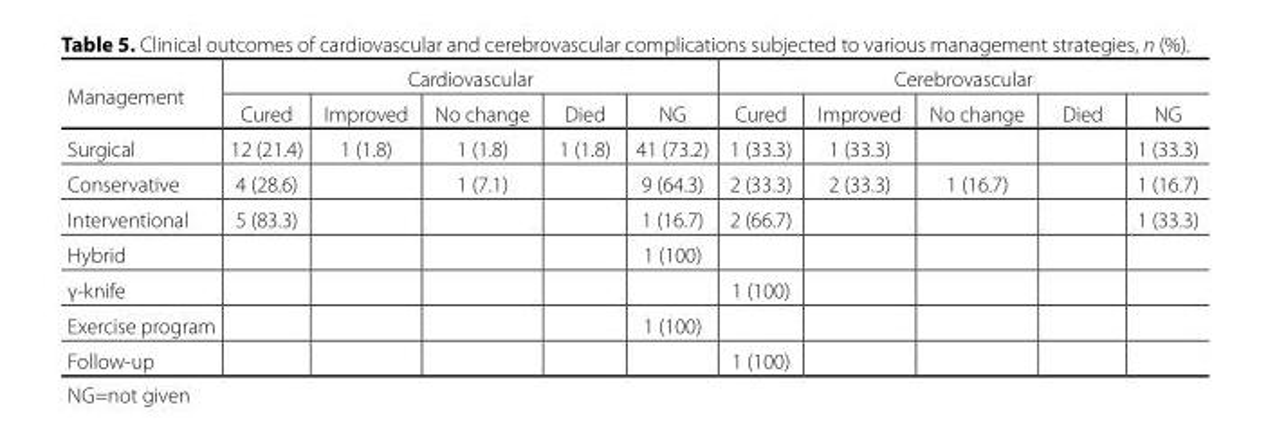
<table><thead><tr><td rowspan="2">Management</td><td colspan="5">Cardiovascular</td><td colspan="5">Cerebrovascular</td></tr><tr><td>Cured</td><td>Improved</td><td>No change</td><td>Died</td><td>NG</td><td>Cured</td><td>Improved</td><td>No change</td><td>Died</td><td>NG</td></tr></thead><tbody><tr><td>Surgical</td><td>12 (21.4)</td><td>1 (1.8)</td><td>1 (1.8)</td><td>1 (1.8)</td><td>41 (73.2)</td><td>1 (33.3)</td><td>1 (33.3)</td><td></td><td></td><td>1 (33.3)</td></tr><tr><td>Conservative</td><td>4 (28.6)</td><td></td><td>1 (7.1)</td><td></td><td>9 (64.3)</td><td>2 (33.3)</td><td>2 (33.3)</td><td>1 (16.7)</td><td></td><td>1 (16.7)</td></tr><tr><td>Interventional</td><td>5 (83.3)</td><td></td><td></td><td></td><td>1 (16.7)</td><td>2 (66.7)</td><td></td><td></td><td></td><td>1 (33.3)</td></tr><tr><td>Hybrid</td><td></td><td></td><td></td><td></td><td>1 (100)</td><td></td><td></td><td></td><td></td><td></td></tr><tr><td>γ-knife</td><td></td><td></td><td></td><td></td><td></td><td>1 (100)</td><td></td><td></td><td></td><td></td></tr><tr><td>Exercise program</td><td></td><td></td><td></td><td></td><td>1 (100)</td><td></td><td></td><td></td><td></td><td></td></tr><tr><td>Follow-up</td><td></td><td></td><td></td><td></td><td></td><td>1 (100)</td><td></td><td></td><td></td><td></td></tr></tbody></table>